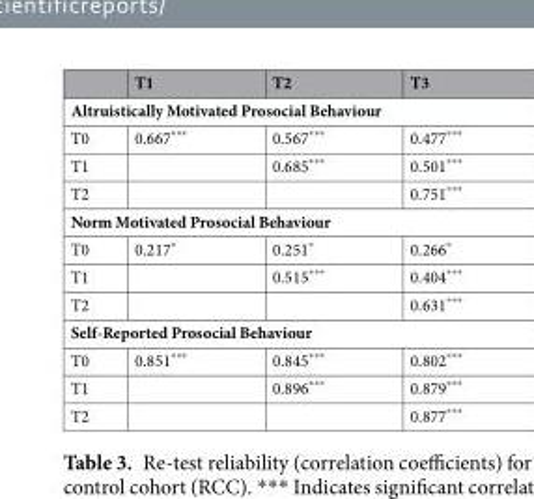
<table><thead><tr><td></td><td>T1</td><td>T2</td><td>T3</td></tr></thead><tbody><tr><td colspan="4">Altruistically Motivated Prosocial Behaviour</td></tr><tr><td>T0</td><td>0.667***</td><td>0.567***</td><td>0.477***</td></tr><tr><td>T1</td><td></td><td>0.685***</td><td>0.501***</td></tr><tr><td>T2</td><td></td><td></td><td>0.751***</td></tr><tr><td colspan="4">Norm Motivated Prosocial Behaviour</td></tr><tr><td>T0</td><td>0.217*</td><td>0.251*</td><td>0.266*</td></tr><tr><td>T1</td><td></td><td>0.515***</td><td>0.404***</td></tr><tr><td>T2</td><td></td><td></td><td>0.631***</td></tr><tr><td colspan="4">Self-Reported Prosocial Behaviour</td></tr><tr><td>T0</td><td>0.851***</td><td>0.845***</td><td>0.802***</td></tr><tr><td>T1</td><td></td><td>0.896***</td><td>0.879***</td></tr><tr><td>T2</td><td></td><td></td><td>0.877***</td></tr></tbody></table>